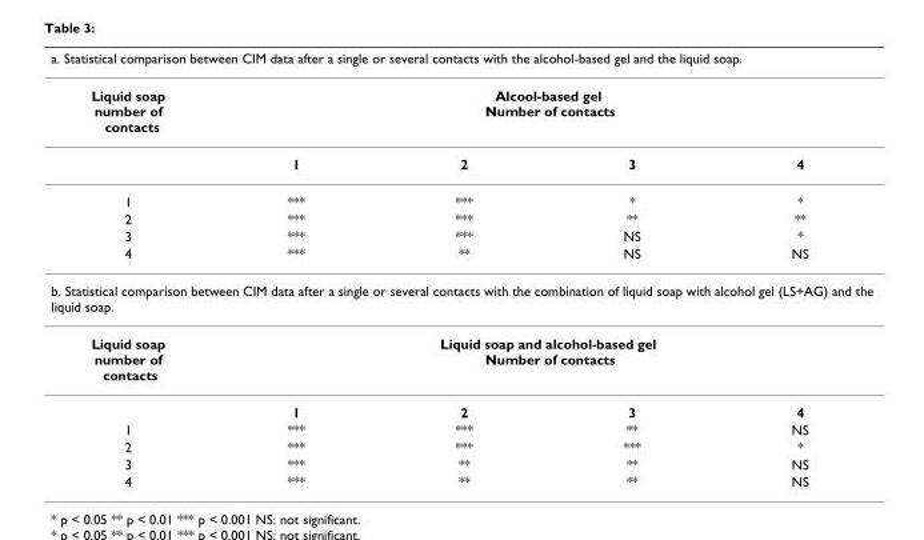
<table><thead><tr><td colspan="5">a. Statistical comparison between CIM data after a single or several contacts with the alcohol-based gel and the liquid soap.</td></tr><tr><td rowspan="2">Liquid soap number of contacts</td><td colspan="4">Alcool-based gel Number of contacts</td></tr><tr><td>1</td><td>2</td><td>3</td><td>4</td></tr></thead><tbody><tr><td>1</td><td>***</td><td>***</td><td>*</td><td>*</td></tr><tr><td>2</td><td>***</td><td>***</td><td>**</td><td>**</td></tr><tr><td>3</td><td>***</td><td>***</td><td>NS</td><td>*</td></tr><tr><td>4</td><td>***</td><td>**</td><td>NS</td><td>NS</td></tr><tr><td colspan="5">b. Statistical comparison between CIM data after a single or several contacts with the combination of liquid soap with alcohol gel (LS+AG) and the liquid soap.</td></tr><tr><td rowspan="2">Liquid soap number of contacts</td><td colspan="4">Liquid soap and alcohol-based gel Number of contacts</td></tr><tr><td>1</td><td>2</td><td>3</td><td>4</td></tr><tr><td>1</td><td>***</td><td>***</td><td>**</td><td>NS</td></tr><tr><td>2</td><td>***</td><td>***</td><td>***</td><td>*</td></tr><tr><td>3</td><td>***</td><td>**</td><td>**</td><td>NS</td></tr><tr><td>4</td><td>***</td><td>**</td><td>**</td><td>NS</td></tr></tbody></table>